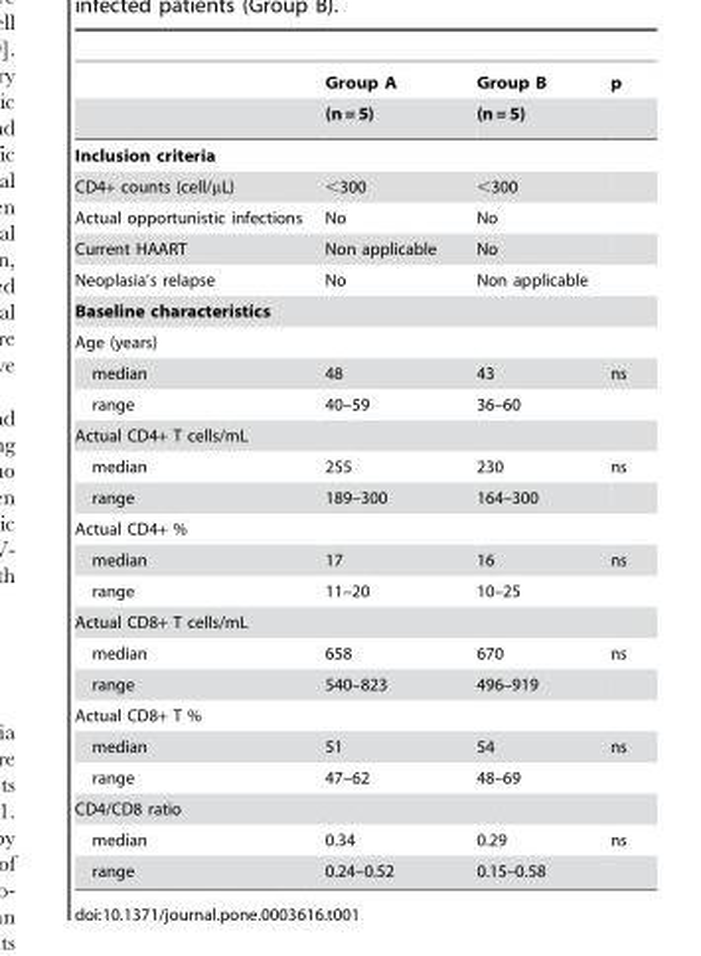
<table><thead><tr><td rowspan="2"></td><td rowspan="2">Group A (n = 5)</td><td rowspan="2">Group B (n = 5)</td><td rowspan="2">p</td></tr><tr></tr></thead><tbody><tr><td colspan="4">Inclusion criteria</td></tr><tr><td>CD4+ counts (cell/μL)</td><td>&lt;300</td><td>&lt;300</td><td></td></tr><tr><td>Actual opportunistic infections</td><td>No</td><td>No</td><td></td></tr><tr><td>Current HAART</td><td>Non applicable</td><td>No</td><td></td></tr><tr><td>Neoplasia’s relapse</td><td>No</td><td>Non applicable</td><td></td></tr><tr><td colspan="4">Baseline characteristics</td></tr><tr><td colspan="4">Age (years)</td></tr><tr><td>median</td><td>48</td><td>43</td><td>ns</td></tr><tr><td>range</td><td>40–59</td><td>36–60</td><td></td></tr><tr><td colspan="4">Actual CD4+ T cells/mL</td></tr><tr><td>median</td><td>255</td><td>230</td><td>ns</td></tr><tr><td>range</td><td>189–300</td><td>164–300</td><td></td></tr><tr><td colspan="4">Actual CD4+ %</td></tr><tr><td>median</td><td>17</td><td>16</td><td>ns</td></tr><tr><td>range</td><td>11–20</td><td>10–25</td><td></td></tr><tr><td colspan="4">Actual CD8+ T cells/mL</td></tr><tr><td>median</td><td>658</td><td>670</td><td>ns</td></tr><tr><td>range</td><td>540–823</td><td>496–919</td><td></td></tr><tr><td colspan="4">Actual CD8+ T %</td></tr><tr><td>median</td><td>51</td><td>54</td><td>ns</td></tr><tr><td>range</td><td>47–62</td><td>48–69</td><td></td></tr><tr><td colspan="4">CD4/CD8 ratio</td></tr><tr><td>median</td><td>0.34</td><td>0.29</td><td>ns</td></tr><tr><td>range</td><td>0.24–0.52</td><td>0.15–0.58</td><td></td></tr></tbody></table>